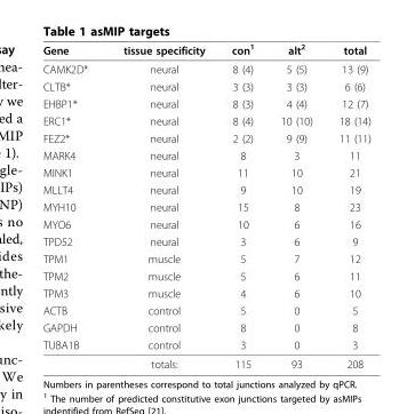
<table><thead><tr><td>Gene</td><td>tissue specificity</td><td>con<sup>1</sup></td><td>alt<sup>2</sup></td><td>total</td></tr></thead><tbody><tr><td>CAMK2D*</td><td>neural</td><td>8 (4)</td><td>5 (5)</td><td>13 (9)</td></tr><tr><td>CLTB*</td><td>neural</td><td>3 (3)</td><td>3 (3)</td><td>6 (6)</td></tr><tr><td>EHBP1*</td><td>neural</td><td>8 (3)</td><td>4 (4)</td><td>12 (7)</td></tr><tr><td>ERC1*</td><td>neural</td><td>8 (4)</td><td>10 (10)</td><td>18 (14)</td></tr><tr><td>FEZ2*</td><td>neural</td><td>2 (2)</td><td>9 (9)</td><td>11 (11)</td></tr><tr><td>MARK4</td><td>neural</td><td>8</td><td>3</td><td>11</td></tr><tr><td>MINK1</td><td>neural</td><td>11</td><td>10</td><td>21</td></tr><tr><td>MLLT4</td><td>neural</td><td>9</td><td>10</td><td>19</td></tr><tr><td>MYH10</td><td>neural</td><td>15</td><td>8</td><td>23</td></tr><tr><td>MYO6</td><td>neural</td><td>10</td><td>6</td><td>16</td></tr><tr><td>TPD52</td><td>neural</td><td>3</td><td>6</td><td>9</td></tr><tr><td>TPM1</td><td>muscle</td><td>5</td><td>7</td><td>12</td></tr><tr><td>TPM2</td><td>muscle</td><td>5</td><td>6</td><td>11</td></tr><tr><td>TPM3</td><td>muscle</td><td>4</td><td>6</td><td>10</td></tr><tr><td>ACTB</td><td>control</td><td>5</td><td>0</td><td>5</td></tr><tr><td>GAPDH</td><td>control</td><td>8</td><td>0</td><td>8</td></tr><tr><td rowspan="2">TUBA1B</td><td>control</td><td>3</td><td>0</td><td>3</td></tr><tr><td>totals:</td><td>115</td><td>93</td><td>208</td></tr></tbody></table>